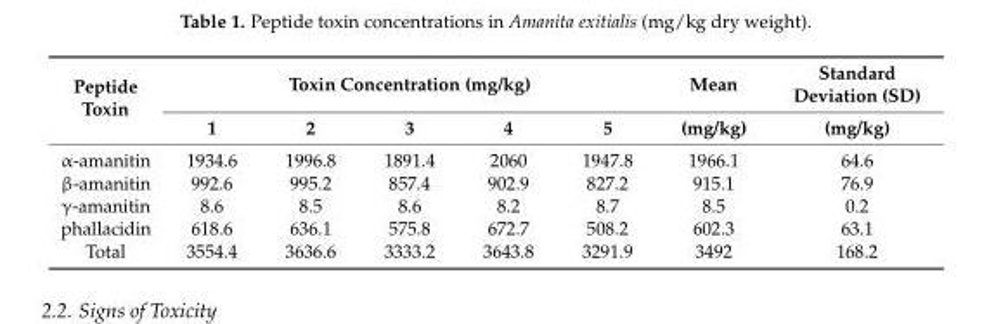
<table><thead><tr><td rowspan="2">Peptide Toxin</td><td colspan="5">Toxin Concentration (mg/kg)</td><td rowspan="2">Mean (mg/kg)</td><td rowspan="2">Standard Deviation (SD) (mg/kg)</td></tr><tr><td>1</td><td>2</td><td>3</td><td>4</td><td>5</td></tr></thead><tbody><tr><td>α-amanitin</td><td>1934.6</td><td>1996.8</td><td>1891.4</td><td>2060</td><td>1947.8</td><td>1966.1</td><td>64.6</td></tr><tr><td>β-amanitin</td><td>992.6</td><td>995.2</td><td>857.4</td><td>902.9</td><td>827.2</td><td>915.1</td><td>76.9</td></tr><tr><td>γ-amanitin</td><td>8.6</td><td>8.5</td><td>8.6</td><td>8.2</td><td>8.7</td><td>8.5</td><td>0.2</td></tr><tr><td>phallacidin</td><td>618.6</td><td>636.1</td><td>575.8</td><td>672.7</td><td>508.2</td><td>602.3</td><td>63.1</td></tr><tr><td>Total</td><td>3554.4</td><td>3636.6</td><td>3333.2</td><td>3643.8</td><td>3291.9</td><td>3492</td><td>168.2</td></tr></tbody></table>